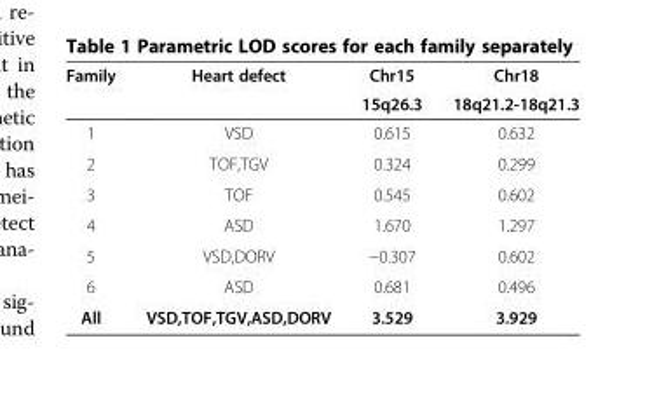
<table><thead><tr><td rowspan="2">Family</td><td rowspan="2">Heart defect</td><td rowspan="2">Chr15 15q26.3</td><td rowspan="2">Chr18 18q21.2-18q21.3</td></tr><tr></tr></thead><tbody><tr><td>1</td><td>VSD</td><td>0.615</td><td>0.632</td></tr><tr><td>2</td><td>TOF,TGV</td><td>0.324</td><td>0.299</td></tr><tr><td>3</td><td>TOF</td><td>0.545</td><td>0.602</td></tr><tr><td>4</td><td>ASD</td><td>1.670</td><td>1.297</td></tr><tr><td>5</td><td>VSD,DORV</td><td>−0.307</td><td>0.602</td></tr><tr><td>6</td><td>ASD</td><td>0.681</td><td>0.496</td></tr><tr><td>All</td><td>VSD,TOF,TGV,ASD,DORV</td><td>3.529</td><td>3.929</td></tr></tbody></table>